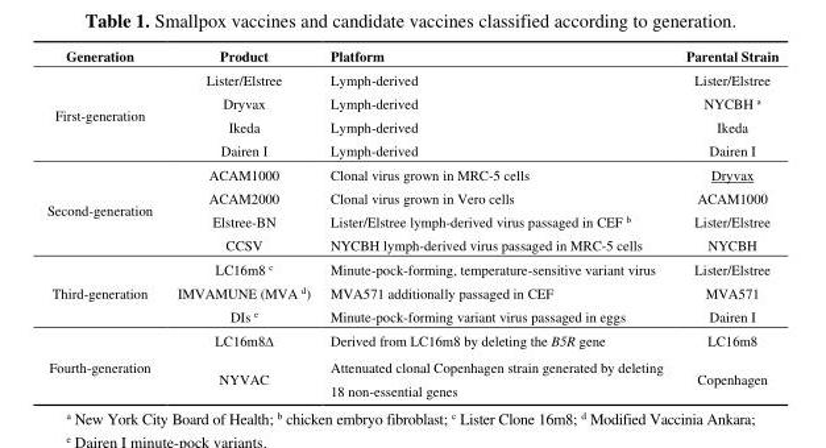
<table><thead><tr><td>Generation</td><td>Product</td><td>Platform</td><td>Parental Strain</td></tr></thead><tbody><tr><td rowspan="4">First-generation</td><td>Lister/Elstree</td><td>Lymph-derived</td><td>Lister/Elstree</td></tr><tr><td>Dryvax</td><td>Lymph-derived</td><td>NYCBH <sup>a</sup></td></tr><tr><td>Ikeda</td><td>Lymph-derived</td><td>Ikeda</td></tr><tr><td>Dairen I</td><td>Lymph-derived</td><td>Dairen I</td></tr><tr><td rowspan="4">Second-generation</td><td>ACAM1000</td><td>Clonal virus grown in MRC-5 cells</td><td>Dryvax</td></tr><tr><td>ACAM2000</td><td>Clonal virus grown in Vero cells</td><td>ACAM1000</td></tr><tr><td>Elstree-BN</td><td>Lister/Elstree lymph-derived virus passaged in CEF <sup>b</sup></td><td>Lister/Elstree</td></tr><tr><td>CCSV</td><td>NYCBH lymph-derived virus passaged in MRC-5 cells</td><td>NYCBH</td></tr><tr><td rowspan="3">Third-generation</td><td>LC16m8 <sup>c</sup></td><td>Minute-pock-forming, temperature-sensitive variant virus</td><td>Lister/Elstree</td></tr><tr><td>IMVAMUNE (MVA <sup>d</sup>)</td><td>MVA571 additionally passaged in CEF</td><td>MVA571</td></tr><tr><td>DIs <sup>e</sup></td><td>Minute-pock-forming variant virus passaged in eggs</td><td>Dairen I</td></tr><tr><td rowspan="2">Fourth-generation</td><td>LC16m8∆</td><td>Derived from LC16m8 by deleting the B5R gene</td><td>LC16m8</td></tr><tr><td>NYVAC</td><td>Attenuated clonal Copenhagen strain generated by deleting 18 non-essential genes</td><td>Copenhagen</td></tr></tbody></table>